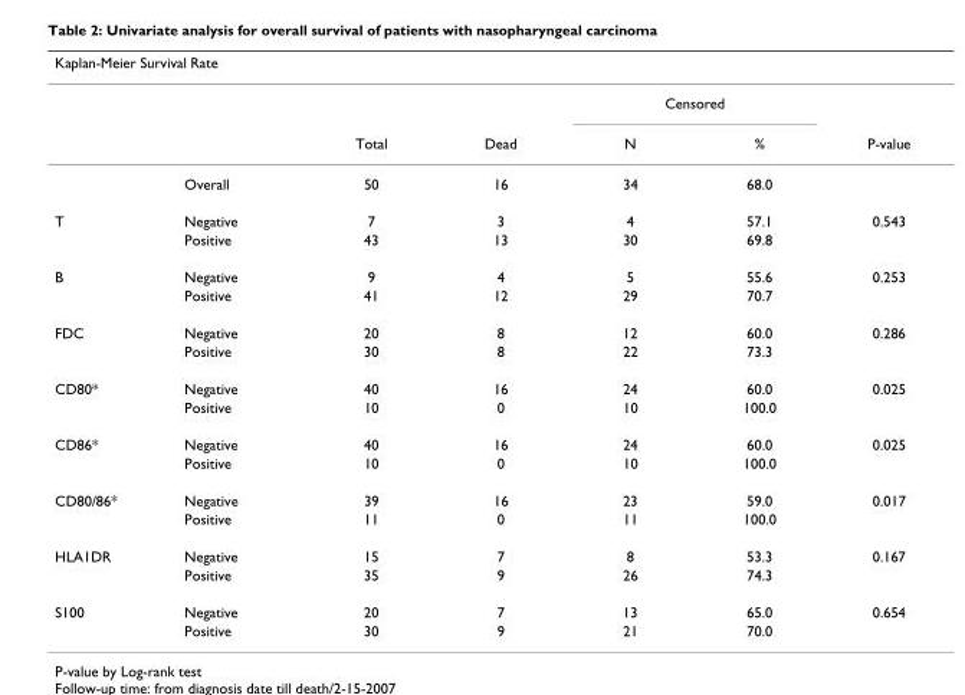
<table><thead><tr><td colspan="7">Kaplan-Meier Survival Rate</td></tr><tr><td rowspan="2"></td><td rowspan="2"></td><td rowspan="2">Total</td><td rowspan="2">Dead</td><td colspan="2">Censored</td><td rowspan="2">P-value</td></tr><tr><td>N</td><td>%</td></tr></thead><tbody><tr><td></td><td>Overall</td><td>50</td><td>16</td><td>34</td><td>68.0</td><td></td></tr><tr><td rowspan="2">T</td><td>Negative</td><td>7</td><td>3</td><td>4</td><td>57.1</td><td>0.543</td></tr><tr><td>Positive</td><td>43</td><td>13</td><td>30</td><td>69.8</td><td></td></tr><tr><td rowspan="2">B</td><td>Negative</td><td>9</td><td>4</td><td>5</td><td>55.6</td><td>0.253</td></tr><tr><td>Positive</td><td>41</td><td>12</td><td>29</td><td>70.7</td><td></td></tr><tr><td rowspan="2">FDC</td><td>Negative</td><td>20</td><td>8</td><td>12</td><td>60.0</td><td>0.286</td></tr><tr><td>Positive</td><td>30</td><td>8</td><td>22</td><td>73.3</td><td></td></tr><tr><td rowspan="2">CD80*</td><td>Negative</td><td>40</td><td>16</td><td>24</td><td>60.0</td><td>0.025</td></tr><tr><td>Positive</td><td>10</td><td>0</td><td>10</td><td>100.0</td><td></td></tr><tr><td rowspan="2">CD86*</td><td>Negative</td><td>40</td><td>16</td><td>24</td><td>60.0</td><td>0.025</td></tr><tr><td>Positive</td><td>10</td><td>0</td><td>10</td><td>100.0</td><td></td></tr><tr><td rowspan="2">CD80/86*</td><td>Negative</td><td>39</td><td>16</td><td>23</td><td>59.0</td><td>0.017</td></tr><tr><td>Positive</td><td>11</td><td>0</td><td>11</td><td>100.0</td><td></td></tr><tr><td rowspan="2">HLA1DR</td><td>Negative</td><td>15</td><td>7</td><td>8</td><td>53.3</td><td>0.167</td></tr><tr><td>Positive</td><td>35</td><td>9</td><td>26</td><td>74.3</td><td></td></tr><tr><td rowspan="2">S100</td><td>Negative</td><td>20</td><td>7</td><td>13</td><td>65.0</td><td>0.654</td></tr><tr><td>Positive</td><td>30</td><td>9</td><td>21</td><td>70.0</td><td></td></tr></tbody></table>